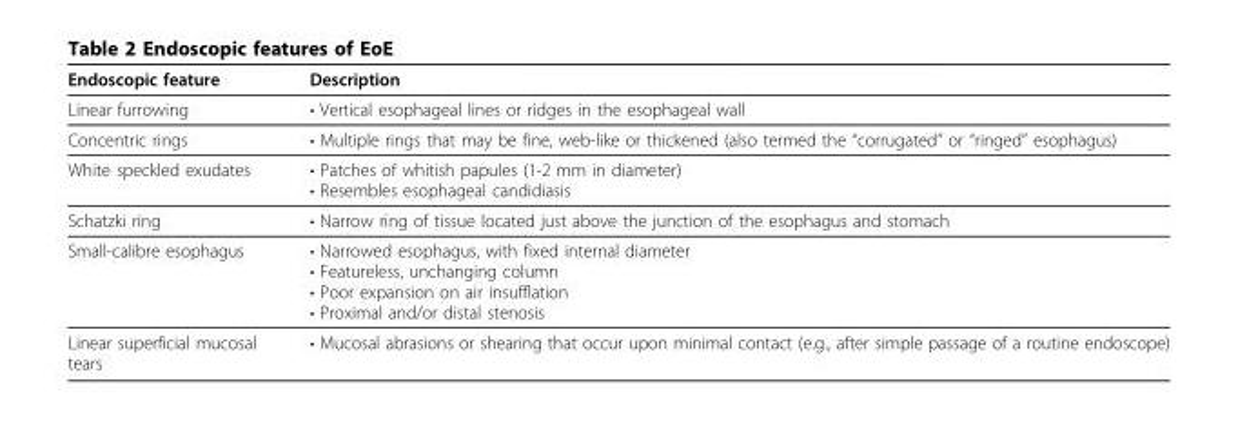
<table><thead><tr><td>Endoscopic feature</td><td>Description</td></tr></thead><tbody><tr><td>Linear furrowing</td><td>• Vertical esophageal lines or ridges in the esophageal wall</td></tr><tr><td>Concentric rings</td><td>• Multiple rings that may be fine, web-like or thickened (also termed the “corrugated” or “ringed” esophagus)</td></tr><tr><td>White speckled exudates</td><td>• Patches of whitish papules (1-2 mm in diameter) • Resembles esophageal candidiasis</td></tr><tr><td>Schatzki ring</td><td>• Narrow ring of tissue located just above the junction of the esophagus and stomach</td></tr><tr><td>Small-calibre esophagus</td><td>• Narrowed esophagus, with fixed internal diameter • Featureless, unchanging column • Poor expansion on air insufflation • Proximal and/or distal stenosis</td></tr><tr><td>Linear superficial mucosal tears</td><td>• Mucosal abrasions or shearing that occur upon minimal contact (e.g., after simple passage of a routine endoscope)</td></tr></tbody></table>